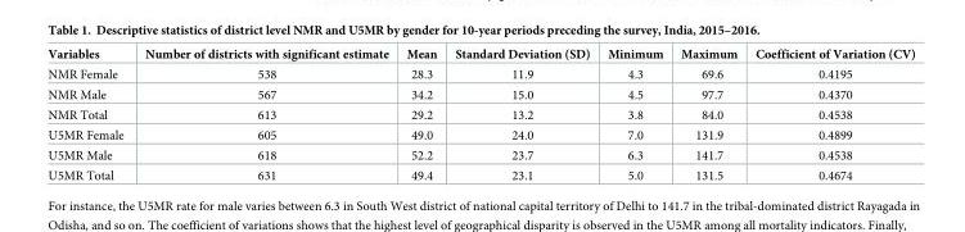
<table><thead><tr><td>Variables</td><td>Number of districts with significant estimate</td><td>Mean</td><td>Standard Deviation (SD)</td><td>Minimum</td><td>Maximum</td><td>Coefficient of Variation (CV)</td></tr></thead><tbody><tr><td>NMR Female</td><td>538</td><td>28.3</td><td>11.9</td><td>4.3</td><td>69.6</td><td>0.4195</td></tr><tr><td>NMR Male</td><td>567</td><td>34.2</td><td>15.0</td><td>4.5</td><td>97.7</td><td>0.4370</td></tr><tr><td>NMR Total</td><td>613</td><td>29.2</td><td>13.2</td><td>3.8</td><td>84.0</td><td>0.4538</td></tr><tr><td>U5MR Female</td><td>605</td><td>49.0</td><td>24.0</td><td>7.0</td><td>131.9</td><td>0.4899</td></tr><tr><td>U5MR Male</td><td>618</td><td>52.2</td><td>23.7</td><td>6.3</td><td>141.7</td><td>0.4538</td></tr><tr><td>U5MR Total</td><td>631</td><td>49.4</td><td>23.1</td><td>5.0</td><td>131.5</td><td>0.4674</td></tr></tbody></table>